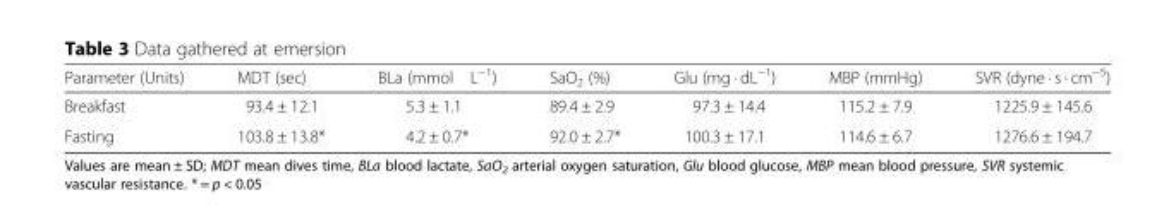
<table><thead><tr><td>Parameter (Units)</td><td>MDT (sec)</td><td>BLa (mmol L−1)</td><td>SaO<sub>2</sub> (%)</td><td>Glu (mg · dL<sup>−1</sup>)</td><td>MBP (mmHg)</td><td>SVR (dyne · s · cm<sup>−5</sup>)</td></tr></thead><tbody><tr><td>Breakfast</td><td>93.4 ± 12.1</td><td>5.3 ± 1.1</td><td>89.4 ± 2.9</td><td>97.3 ± 14.4</td><td>115.2 ± 7.9</td><td>1225.9 ± 145.6</td></tr><tr><td>Fasting</td><td>103.8 ± 13.8*</td><td>4.2 ± 0.7*</td><td>92.0 ± 2.7*</td><td>100.3 ± 17.1</td><td>114.6 ± 6.7</td><td>1276.6 ± 194.7</td></tr></tbody></table>